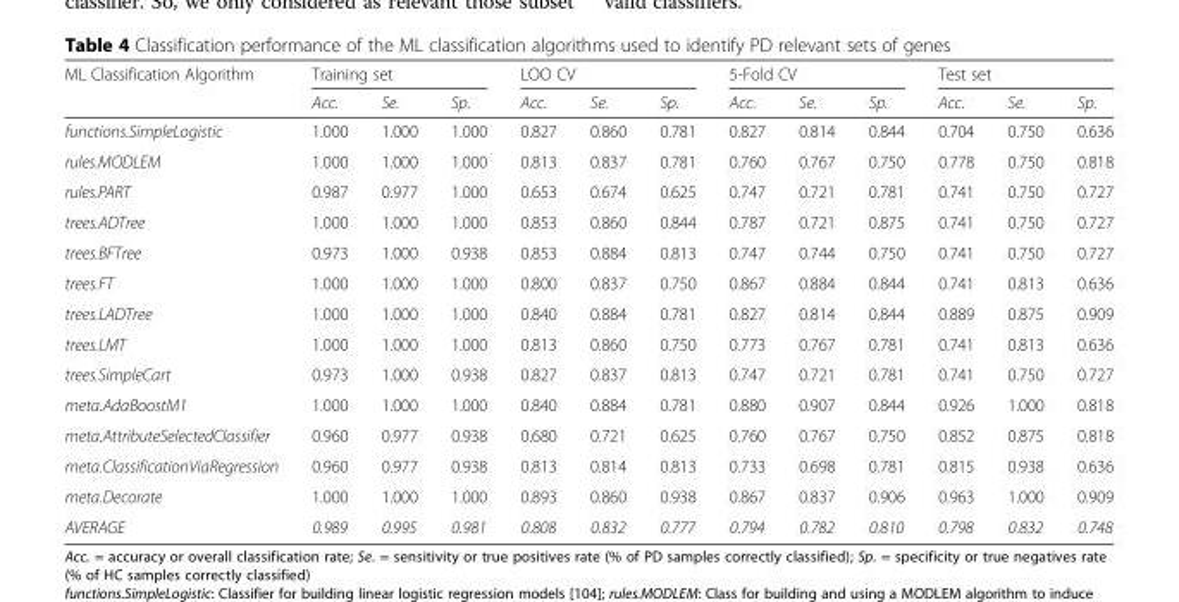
<table><thead><tr><td rowspan="2">ML Classification Algorithm</td><td colspan="3">Training set</td><td colspan="3">LOO CV</td><td colspan="3">5-Fold CV</td><td colspan="3">Test set</td></tr><tr><td>Acc.</td><td>Se.</td><td>Sp.</td><td>Acc.</td><td>Se.</td><td>Sp.</td><td>Acc.</td><td>Se.</td><td>Sp.</td><td>Acc.</td><td>Se.</td><td>Sp.</td></tr></thead><tbody><tr><td>functions.SimpleLogistic</td><td>1.000</td><td>1.000</td><td>1.000</td><td>0.827</td><td>0.860</td><td>0.781</td><td>0.827</td><td>0.814</td><td>0.844</td><td>0.704</td><td>0.750</td><td>0.636</td></tr><tr><td>rules.MODLEM</td><td>1.000</td><td>1.000</td><td>1.000</td><td>0.813</td><td>0.837</td><td>0.781</td><td>0.760</td><td>0.767</td><td>0.750</td><td>0.778</td><td>0.750</td><td>0.818</td></tr><tr><td>rules.PART</td><td>0.987</td><td>0.977</td><td>1.000</td><td>0.653</td><td>0.674</td><td>0.625</td><td>0.747</td><td>0.721</td><td>0.781</td><td>0.741</td><td>0.750</td><td>0.727</td></tr><tr><td>trees.ADTree</td><td>1.000</td><td>1.000</td><td>1.000</td><td>0.853</td><td>0.860</td><td>0.844</td><td>0.787</td><td>0.721</td><td>0.875</td><td>0.741</td><td>0.750</td><td>0.727</td></tr><tr><td>trees.BFTree</td><td>0.973</td><td>1.000</td><td>0.938</td><td>0.853</td><td>0.884</td><td>0.813</td><td>0.747</td><td>0.744</td><td>0.750</td><td>0.741</td><td>0.750</td><td>0.727</td></tr><tr><td>trees.FT</td><td>1.000</td><td>1.000</td><td>1.000</td><td>0.800</td><td>0.837</td><td>0.750</td><td>0.867</td><td>0.884</td><td>0.844</td><td>0.741</td><td>0.813</td><td>0.636</td></tr><tr><td>trees.LADTree</td><td>1.000</td><td>1.000</td><td>1.000</td><td>0.840</td><td>0.884</td><td>0.781</td><td>0.827</td><td>0.814</td><td>0.844</td><td>0.889</td><td>0.875</td><td>0.909</td></tr><tr><td>trees.LMT</td><td>1.000</td><td>1.000</td><td>1.000</td><td>0.813</td><td>0.860</td><td>0.750</td><td>0.773</td><td>0.767</td><td>0.781</td><td>0.741</td><td>0.813</td><td>0.636</td></tr><tr><td>trees.SimpleCart</td><td>0.973</td><td>1.000</td><td>0.938</td><td>0.827</td><td>0.837</td><td>0.813</td><td>0.747</td><td>0.721</td><td>0.781</td><td>0.741</td><td>0.750</td><td>0.727</td></tr><tr><td>meta.AdaBoostM1</td><td>1.000</td><td>1.000</td><td>1.000</td><td>0.840</td><td>0.884</td><td>0.781</td><td>0.880</td><td>0.907</td><td>0.844</td><td>0.926</td><td>1.000</td><td>0.818</td></tr><tr><td>meta.AttributeSelectedClassifier</td><td>0.960</td><td>0.977</td><td>0.938</td><td>0.680</td><td>0.721</td><td>0.625</td><td>0.760</td><td>0.767</td><td>0.750</td><td>0.852</td><td>0.875</td><td>0.818</td></tr><tr><td>meta.ClassificationViaRegression</td><td>0.960</td><td>0.977</td><td>0.938</td><td>0.813</td><td>0.814</td><td>0.813</td><td>0.733</td><td>0.698</td><td>0.781</td><td>0.815</td><td>0.938</td><td>0.636</td></tr><tr><td>meta.Decorate</td><td>1.000</td><td>1.000</td><td>1.000</td><td>0.893</td><td>0.860</td><td>0.938</td><td>0.867</td><td>0.837</td><td>0.906</td><td>0.963</td><td>1.000</td><td>0.909</td></tr><tr><td>AVERAGE</td><td>0.989</td><td>0.995</td><td>0.981</td><td>0.808</td><td>0.832</td><td>0.777</td><td>0.794</td><td>0.782</td><td>0.810</td><td>0.798</td><td>0.832</td><td>0.748</td></tr></tbody></table>